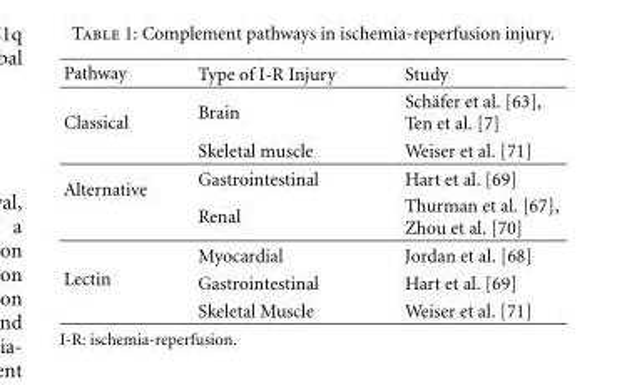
<table><thead><tr><td>Pathway</td><td>Type of I-R Injury</td><td>Study</td></tr></thead><tbody><tr><td rowspan="2">Classical</td><td>Brain</td><td>Sch¨afer et al. [63], Ten et al. [7]</td></tr><tr><td>Skeletal muscle</td><td>Weiser et al. [71]</td></tr><tr><td rowspan="2">Alternative</td><td>Gastrointestinal</td><td>Hart et al. [69]</td></tr><tr><td>Renal</td><td>Thurman et al. [67], Zhou et al. [70]</td></tr><tr><td rowspan="3">Lectin</td><td>Myocardial</td><td>Jordan et al. [68]</td></tr><tr><td>Gastrointestinal</td><td>Hart et al. [69]</td></tr><tr><td>Skeletal Muscle</td><td>Weiser et al. [71]</td></tr></tbody></table>